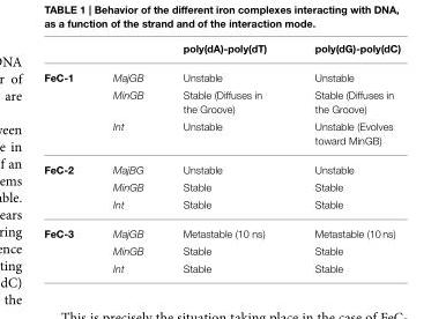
<table><thead><tr><td></td><td></td><td>poly(dA)-poly(dT)</td><td>poly(dG)-poly(dC)</td></tr></thead><tbody><tr><td rowspan="3">FeC-1</td><td>MajGB</td><td>Unstable</td><td>Unstable</td></tr><tr><td>MinGB</td><td>Stable (Diffuses in the Groove)</td><td>Stable (Diffuses in the Groove)</td></tr><tr><td>Int</td><td>Unstable</td><td>Unstable (Evolves toward MinGB)</td></tr><tr><td rowspan="3">FeC-2</td><td>MajBG</td><td>Unstable</td><td>Unstable</td></tr><tr><td>MinGB</td><td>Stable</td><td>Stable</td></tr><tr><td>Int</td><td>Stable</td><td>Stable</td></tr><tr><td rowspan="3">FeC-3</td><td>MajGB</td><td>Metastable (10 ns)</td><td>Metastable (10 ns)</td></tr><tr><td>MinGB</td><td>Stable</td><td>Stable</td></tr><tr><td>Int</td><td>Stable</td><td>Stable</td></tr></tbody></table>